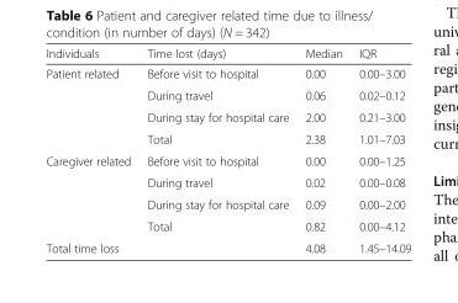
<table><thead><tr><td>Individuals</td><td>Time lost (days)</td><td>Median</td><td>IQR</td></tr></thead><tbody><tr><td rowspan="4">Patient related</td><td>Before visit to hospital</td><td>0.00</td><td>0.00–3.00</td></tr><tr><td>During travel</td><td>0.06</td><td>0.02–0.12</td></tr><tr><td>During stay for hospital care</td><td>2.00</td><td>0.21–3.00</td></tr><tr><td>Total</td><td>2.38</td><td>1.01–7.03</td></tr><tr><td rowspan="4">Caregiver related</td><td>Before visit to hospital</td><td>0.00</td><td>0.00–1.25</td></tr><tr><td>During travel</td><td>0.02</td><td>0.00–0.08</td></tr><tr><td>During stay for hospital care</td><td>0.09</td><td>0.00–2.00</td></tr><tr><td>Total</td><td>0.82</td><td>0.00–4.12</td></tr><tr><td colspan="2">Total time loss</td><td>4.08</td><td>1.45–14.09</td></tr></tbody></table>